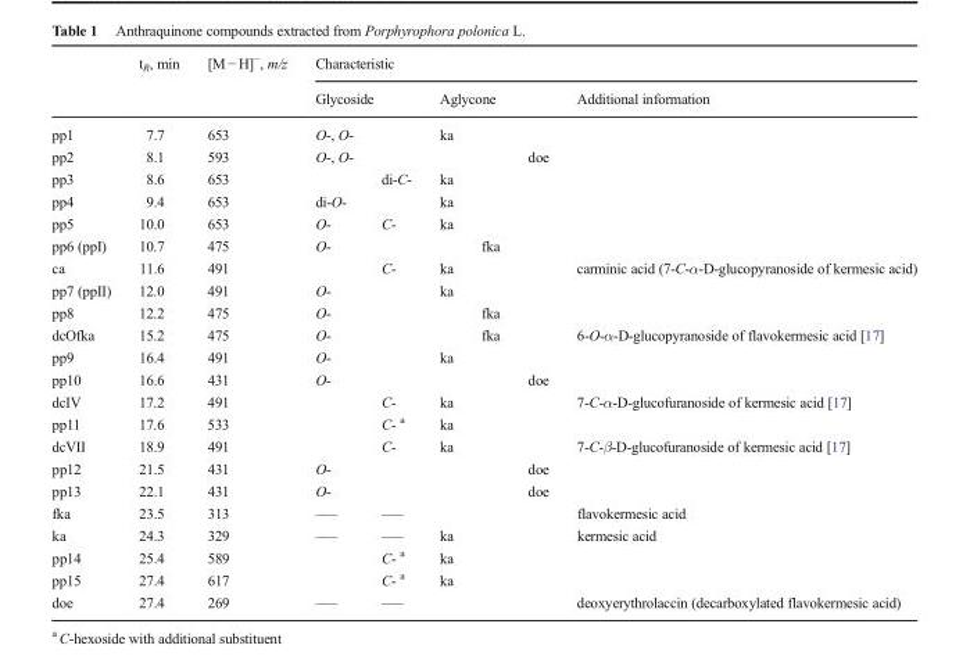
<table><thead><tr><td rowspan="3">pp1</td><td rowspan="3">t<sub>R</sub>, min 7.7</td><td rowspan="3">[M − H]<sup>−</sup>, m/z 653</td><td colspan="6">Characteristic</td></tr><tr><td colspan="2">Glycoside</td><td colspan="3">Aglycone</td><td rowspan="2">Additional information</td></tr><tr><td>O-, O-</td><td></td><td>ka</td><td></td><td></td></tr></thead><tbody><tr><td>pp2</td><td>8.1</td><td>593</td><td>O-, O-</td><td></td><td></td><td></td><td>doe</td><td></td></tr><tr><td>pp3</td><td>8.6</td><td>653</td><td></td><td>di-C-</td><td>ka</td><td></td><td></td><td></td></tr><tr><td>pp4</td><td>9.4</td><td>653</td><td>di-O-</td><td></td><td>ka</td><td></td><td></td><td></td></tr><tr><td>pp5</td><td>10.0</td><td>653</td><td>O-</td><td>C-</td><td>ka</td><td></td><td></td><td></td></tr><tr><td>pp6 (ppI)</td><td>10.7</td><td>475</td><td>O-</td><td></td><td></td><td>fka</td><td></td><td></td></tr><tr><td>ca</td><td>11.6</td><td>491</td><td></td><td>C-</td><td>ka</td><td></td><td></td><td>carminic acid (7-C-α-D-glucopyranoside of kermesic acid)</td></tr><tr><td>pp7 (ppII)</td><td>12.0</td><td>491</td><td>O-</td><td></td><td>ka</td><td></td><td></td><td></td></tr><tr><td>pp8</td><td>12.2</td><td>475</td><td>O-</td><td></td><td></td><td>fka</td><td></td><td></td></tr><tr><td>dcOfka</td><td>15.2</td><td>475</td><td>O-</td><td></td><td></td><td>fka</td><td></td><td>6-O-α-D-glucopyranoside of flavokermesic acid [17]</td></tr><tr><td>pp9</td><td>16.4</td><td>491</td><td>O-</td><td></td><td>ka</td><td></td><td></td><td></td></tr><tr><td>pp10</td><td>16.6</td><td>431</td><td>O-</td><td></td><td></td><td></td><td>doe</td><td></td></tr><tr><td>dcIV</td><td>17.2</td><td>491</td><td></td><td>C-</td><td>ka</td><td></td><td></td><td>7-C-α-D-glucofuranoside of kermesic acid [17]</td></tr><tr><td>pp11</td><td>17.6</td><td>533</td><td></td><td>C- <sup>a</sup></td><td>ka</td><td></td><td></td><td></td></tr><tr><td>dcVII</td><td>18.9</td><td>491</td><td></td><td>C-</td><td>ka</td><td></td><td></td><td>7-C-β-D-glucofuranoside of kermesic acid [17]</td></tr><tr><td>pp12</td><td>21.5</td><td>431</td><td>O-</td><td></td><td></td><td></td><td>doe</td><td></td></tr><tr><td>pp13</td><td>22.1</td><td>431</td><td>O-</td><td></td><td></td><td></td><td>doe</td><td></td></tr><tr><td>fka</td><td>23.5</td><td>313</td><td>–––</td><td>–––</td><td></td><td></td><td></td><td>flavokermesic acid</td></tr><tr><td>ka</td><td>24.3</td><td>329</td><td>–––</td><td>–––</td><td>ka</td><td></td><td></td><td>kermesic acid</td></tr><tr><td>pp14</td><td>25.4</td><td>589</td><td></td><td>C- <sup>a</sup></td><td>ka</td><td></td><td></td><td></td></tr><tr><td>pp15</td><td>27.4</td><td>617</td><td></td><td>C- <sup>a</sup></td><td>ka</td><td></td><td></td><td></td></tr><tr><td>doe</td><td>27.4</td><td>269</td><td>–––</td><td>–––</td><td></td><td></td><td></td><td>deoxyerythrolaccin (decarboxylated flavokermesic acid)</td></tr></tbody></table>